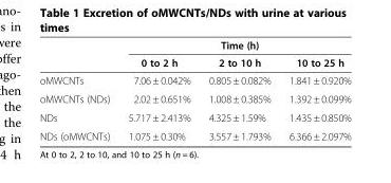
<table><thead><tr><td rowspan="2"></td><td colspan="3">Time (h)</td></tr><tr><td>0 to 2 h</td><td>2 to 10 h</td><td>10 to 25 h</td></tr></thead><tbody><tr><td>oMWCNTs</td><td>7.06 ± 0.042%</td><td>0.805 ± 0.082%</td><td>1.841 ± 0.920%</td></tr><tr><td>oMWCNTs (NDs)</td><td>2.02 ± 0.651%</td><td>1.008 ± 0.385%</td><td>1.392 ± 0.099%</td></tr><tr><td>NDs</td><td>5.717 ± 2.413%</td><td>4.325 ± 1.59%</td><td>1.435 ± 0.850%</td></tr><tr><td>NDs (oMWCNTs)</td><td>1.075 ± 0.30%</td><td>3.557 ± 1.793%</td><td>6.366 ± 2.097%</td></tr></tbody></table>